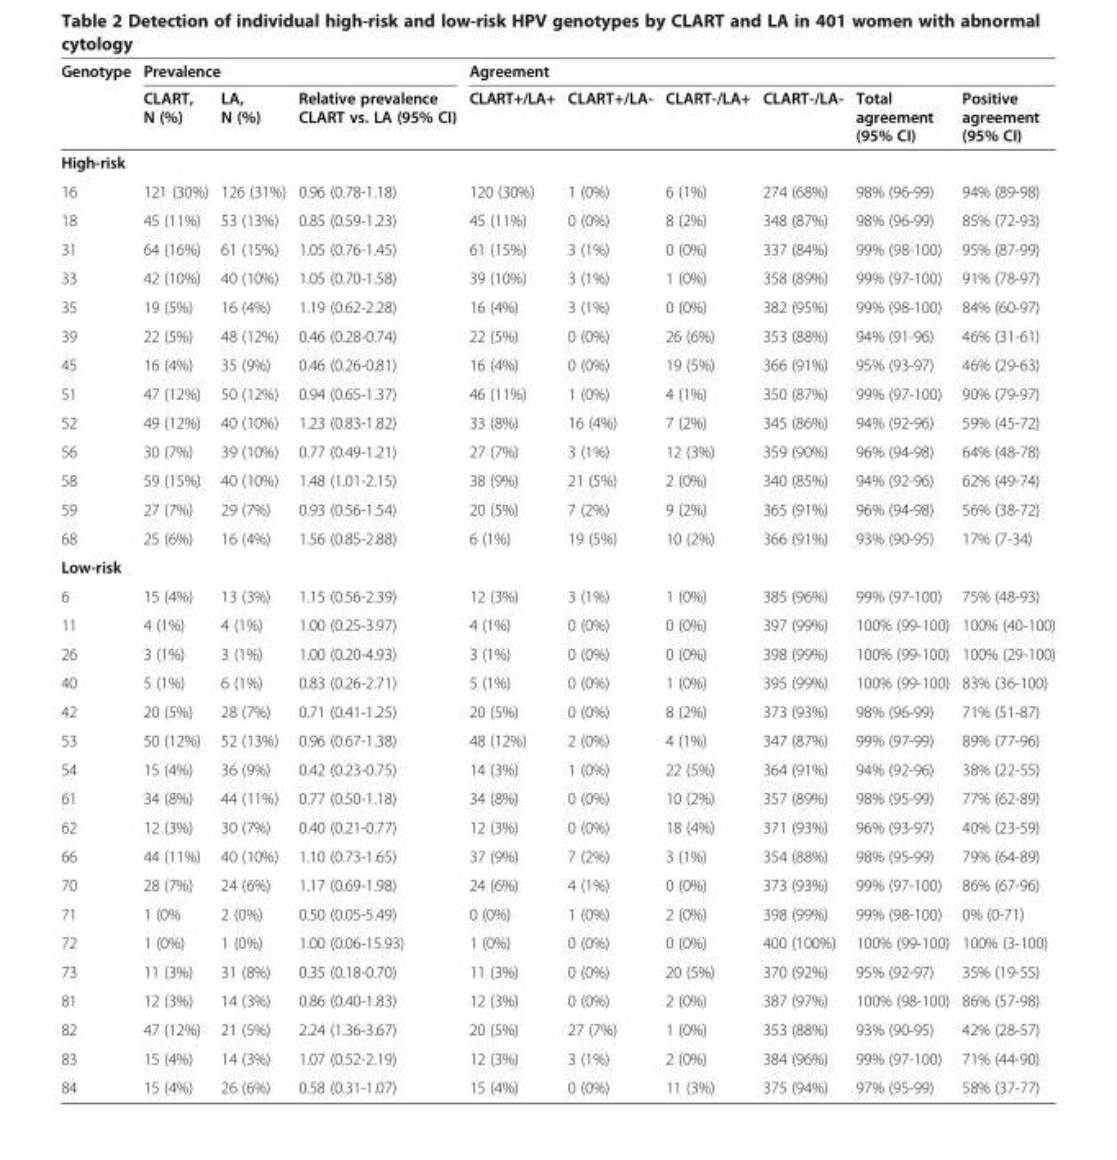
<table><thead><tr><td rowspan="2">Genotype</td><td colspan="3">Prevalence</td><td colspan="6">Agreement</td></tr><tr><td>CLART, N (%)</td><td>LA, N (%)</td><td>Relative prevalence CLART vs. LA (95% CI)</td><td>CLART+/LA+</td><td>CLART+/LA-</td><td>CLART-/LA+</td><td>CLART-/LA-</td><td>Total agreement (95% CI)</td><td>Positive agreement (95% CI)</td></tr></thead><tbody><tr><td colspan="10">High-risk</td></tr><tr><td>16</td><td>121 (30%)</td><td>126 (31%)</td><td>0.96 (0.78-1.18)</td><td>120 (30%)</td><td>1 (0%)</td><td>6 (1%)</td><td>274 (68%)</td><td>98% (96-99)</td><td>94% (89-98)</td></tr><tr><td>18</td><td>45 (11%)</td><td>53 (13%)</td><td>0.85 (0.59-1.23)</td><td>45 (11%)</td><td>0 (0%)</td><td>8 (2%)</td><td>348 (87%)</td><td>98% (96-99)</td><td>85% (72-93)</td></tr><tr><td>31</td><td>64 (16%)</td><td>61 (15%)</td><td>1.05 (0.76-1.45)</td><td>61 (15%)</td><td>3 (1%)</td><td>0 (0%)</td><td>337 (84%)</td><td>99% (98-100)</td><td>95% (87-99)</td></tr><tr><td>33</td><td>42 (10%)</td><td>40 (10%)</td><td>1.05 (0.70-1.58)</td><td>39 (10%)</td><td>3 (1%)</td><td>1 (0%)</td><td>358 (89%)</td><td>99% (97-100)</td><td>91% (78-97)</td></tr><tr><td>35</td><td>19 (5%)</td><td>16 (4%)</td><td>1.19 (0.62-2.28)</td><td>16 (4%)</td><td>3 (1%)</td><td>0 (0%)</td><td>382 (95%)</td><td>99% (98-100)</td><td>84% (60-97)</td></tr><tr><td>39</td><td>22 (5%)</td><td>48 (12%)</td><td>0.46 (0.28-0.74)</td><td>22 (5%)</td><td>0 (0%)</td><td>26 (6%)</td><td>353 (88%)</td><td>94% (91-96)</td><td>46% (31-61)</td></tr><tr><td>45</td><td>16 (4%)</td><td>35 (9%)</td><td>0.46 (0.26-0.81)</td><td>16 (4%)</td><td>0 (0%)</td><td>19 (5%)</td><td>366 (91%)</td><td>95% (93-97)</td><td>46% (29-63)</td></tr><tr><td>51</td><td>47 (12%)</td><td>50 (12%)</td><td>0.94 (0.65-1.37)</td><td>46 (11%)</td><td>1 (0%)</td><td>4 (1%)</td><td>350 (87%)</td><td>99% (97-100)</td><td>90% (79-97)</td></tr><tr><td>52</td><td>49 (12%)</td><td>40 (10%)</td><td>1.23 (0.83-1.82)</td><td>33 (8%)</td><td>16 (4%)</td><td>7 (2%)</td><td>345 (86%)</td><td>94% (92-96)</td><td>59% (45-72)</td></tr><tr><td>56</td><td>30 (7%)</td><td>39 (10%)</td><td>0.77 (0.49-1.21)</td><td>27 (7%)</td><td>3 (1%)</td><td>12 (3%)</td><td>359 (90%)</td><td>96% (94-98)</td><td>64% (48-78)</td></tr><tr><td>58</td><td>59 (15%)</td><td>40 (10%)</td><td>1.48 (1.01-2.15)</td><td>38 (9%)</td><td>21 (5%)</td><td>2 (0%)</td><td>340 (85%)</td><td>94% (92-96)</td><td>62% (49-74)</td></tr><tr><td>59</td><td>27 (7%)</td><td>29 (7%)</td><td>0.93 (0.56-1.54)</td><td>20 (5%)</td><td>7 (2%)</td><td>9 (2%)</td><td>365 (91%)</td><td>96% (94-98)</td><td>56% (38-72)</td></tr><tr><td>68</td><td>25 (6%)</td><td>16 (4%)</td><td>1.56 (0.85-2.88)</td><td>6 (1%)</td><td>19 (5%)</td><td>10 (2%)</td><td>366 (91%)</td><td>93% (90-95)</td><td>17% (7-34)</td></tr><tr><td colspan="10">Low-risk</td></tr><tr><td>6</td><td>15 (4%)</td><td>13 (3%)</td><td>1.15 (0.56-2.39)</td><td>12 (3%)</td><td>3 (1%)</td><td>1 (0%)</td><td>385 (96%)</td><td>99% (97-100)</td><td>75% (48-93)</td></tr><tr><td>11</td><td>4 (1%)</td><td>4 (1%)</td><td>1.00 (0.25-3.97)</td><td>4 (1%)</td><td>0 (0%)</td><td>0 (0%)</td><td>397 (99%)</td><td>100% (99-100)</td><td>100% (40-100)</td></tr><tr><td>26</td><td>3 (1%)</td><td>3 (1%)</td><td>1.00 (0.20-4.93)</td><td>3 (1%)</td><td>0 (0%)</td><td>0 (0%)</td><td>398 (99%)</td><td>100% (99-100)</td><td>100% (29-100)</td></tr><tr><td>40</td><td>5 (1%)</td><td>6 (1%)</td><td>0.83 (0.26-2.71)</td><td>5 (1%)</td><td>0 (0%)</td><td>1 (0%)</td><td>395 (99%)</td><td>100% (99-100)</td><td>83% (36-100)</td></tr><tr><td>42</td><td>20 (5%)</td><td>28 (7%)</td><td>0.71 (0.41-1.25)</td><td>20 (5%)</td><td>0 (0%)</td><td>8 (2%)</td><td>373 (93%)</td><td>98% (96-99)</td><td>71% (51-87)</td></tr><tr><td>53</td><td>50 (12%)</td><td>52 (13%)</td><td>0.96 (0.67-1.38)</td><td>48 (12%)</td><td>2 (0%)</td><td>4 (1%)</td><td>347 (87%)</td><td>99% (97-99)</td><td>89% (77-96)</td></tr><tr><td>54</td><td>15 (4%)</td><td>36 (9%)</td><td>0.42 (0.23-0.75)</td><td>14 (3%)</td><td>1 (0%)</td><td>22 (5%)</td><td>364 (91%)</td><td>94% (92-96)</td><td>38% (22-55)</td></tr><tr><td>61</td><td>34 (8%)</td><td>44 (11%)</td><td>0.77 (0.50-1.18)</td><td>34 (8%)</td><td>0 (0%)</td><td>10 (2%)</td><td>357 (89%)</td><td>98% (95-99)</td><td>77% (62-89)</td></tr><tr><td>62</td><td>12 (3%)</td><td>30 (7%)</td><td>0.40 (0.21-0.77)</td><td>12 (3%)</td><td>0 (0%)</td><td>18 (4%)</td><td>371 (93%)</td><td>96% (93-97)</td><td>40% (23-59)</td></tr><tr><td>66</td><td>44 (11%)</td><td>40 (10%)</td><td>1.10 (0.73-1.65)</td><td>37 (9%)</td><td>7 (2%)</td><td>3 (1%)</td><td>354 (88%)</td><td>98% (95-99)</td><td>79% (64-89)</td></tr><tr><td>70</td><td>28 (7%)</td><td>24 (6%)</td><td>1.17 (0.69-1.98)</td><td>24 (6%)</td><td>4 (1%)</td><td>0 (0%)</td><td>373 (93%)</td><td>99% (97-100)</td><td>86% (67-96)</td></tr><tr><td>71</td><td>1 (0%</td><td>2 (0%)</td><td>0.50 (0.05-5.49)</td><td>0 (0%)</td><td>1 (0%)</td><td>2 (0%)</td><td>398 (99%)</td><td>99% (98-100)</td><td>0% (0-71)</td></tr><tr><td>72</td><td>1 (0%)</td><td>1 (0%)</td><td>1.00 (0.06-15.93)</td><td>1 (0%)</td><td>0 (0%)</td><td>0 (0%)</td><td>400 (100%)</td><td>100% (99-100)</td><td>100% (3-100)</td></tr><tr><td>73</td><td>11 (3%)</td><td>31 (8%)</td><td>0.35 (0.18-0.70)</td><td>11 (3%)</td><td>0 (0%)</td><td>20 (5%)</td><td>370 (92%)</td><td>95% (92-97)</td><td>35% (19-55)</td></tr><tr><td>81</td><td>12 (3%)</td><td>14 (3%)</td><td>0.86 (0.40-1.83)</td><td>12 (3%)</td><td>0 (0%)</td><td>2 (0%)</td><td>387 (97%)</td><td>100% (98-100)</td><td>86% (57-98)</td></tr><tr><td>82</td><td>47 (12%)</td><td>21 (5%)</td><td>2.24 (1.36-3.67)</td><td>20 (5%)</td><td>27 (7%)</td><td>1 (0%)</td><td>353 (88%)</td><td>93% (90-95)</td><td>42% (28-57)</td></tr><tr><td>83</td><td>15 (4%)</td><td>14 (3%)</td><td>1.07 (0.52-2.19)</td><td>12 (3%)</td><td>3 (1%)</td><td>2 (0%)</td><td>384 (96%)</td><td>99% (97-100)</td><td>71% (44-90)</td></tr><tr><td>84</td><td>15 (4%)</td><td>26 (6%)</td><td>0.58 (0.31-1.07)</td><td>15 (4%)</td><td>0 (0%)</td><td>11 (3%)</td><td>375 (94%)</td><td>97% (95-99)</td><td>58% (37-77)</td></tr></tbody></table>